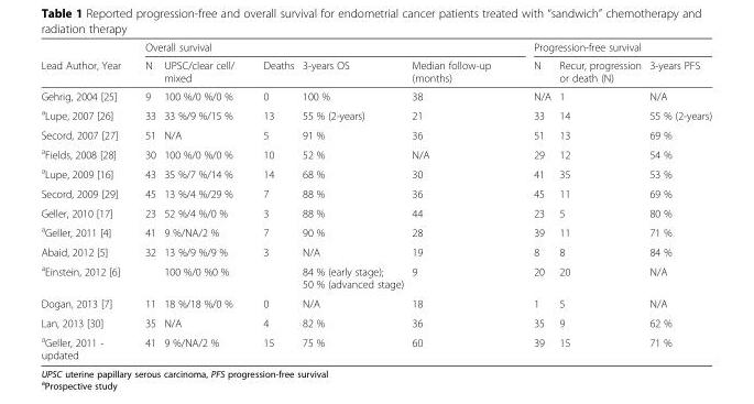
<table><thead><tr><td rowspan="2">Lead Author, Year</td><td colspan="5">Overall survival</td><td colspan="3">Progression-free survival</td></tr><tr><td>N</td><td>UPSC/clear cell/ mixed</td><td>Deaths</td><td>3-years OS</td><td>Median follow-up (months)</td><td>N</td><td>Recur, progression or death (N)</td><td>3-years PFS</td></tr></thead><tbody><tr><td>Gehrig, 2004 [25]</td><td>9</td><td>100 %/0 %/0 %</td><td>0</td><td>100 %</td><td>38</td><td>N/A</td><td>1</td><td>N/A</td></tr><tr><td><sup>a</sup>Lupe, 2007 [26]</td><td>33</td><td>33 %/9 %/15 %</td><td>13</td><td>55 % (2-years)</td><td>21</td><td>33</td><td>14</td><td>55 % (2-years)</td></tr><tr><td>Secord, 2007 [27]</td><td>51</td><td>N/A</td><td>5</td><td>91 %</td><td>36</td><td>51</td><td>13</td><td>69 %</td></tr><tr><td><sup>a</sup>Fields, 2008 [28]</td><td>30</td><td>100 %/0 %/0 %</td><td>10</td><td>52 %</td><td>N/A</td><td>29</td><td>12</td><td>54 %</td></tr><tr><td><sup>a</sup>Lupe, 2009 [16]</td><td>43</td><td>35 %/7 %/14 %</td><td>14</td><td>68 %</td><td>30</td><td>41</td><td>35</td><td>53 %</td></tr><tr><td>Secord, 2009 [29]</td><td>45</td><td>13 %/4 %/29 %</td><td>7</td><td>88 %</td><td>36</td><td>45</td><td>11</td><td>69 %</td></tr><tr><td>Geller, 2010 [17]</td><td>23</td><td>52 %/4 %/0 %</td><td>3</td><td>88 %</td><td>44</td><td>23</td><td>5</td><td>80 %</td></tr><tr><td><sup>a</sup>Geller, 2011 [4]</td><td>41</td><td>9 %/NA/2 %</td><td>7</td><td>90 %</td><td>28</td><td>39</td><td>11</td><td>71 %</td></tr><tr><td>Abaid, 2012 [5]</td><td>32</td><td>13 %/9 %/9 %</td><td>3</td><td>N/A</td><td>19</td><td>8</td><td>8</td><td>84 %</td></tr><tr><td><sup>a</sup>Einstein, 2012 [6]</td><td></td><td>100 %/0 %0 %</td><td></td><td>84 % (early stage); 50 % (advanced stage)</td><td>9</td><td>20</td><td>20</td><td>N/A</td></tr><tr><td>Dogan, 2013 [7]</td><td>11</td><td>18 %/18 %/0 %</td><td>0</td><td>N/A</td><td>18</td><td>1</td><td>5</td><td>N/A</td></tr><tr><td>Lan, 2013 [30]</td><td>35</td><td>N/A</td><td>4</td><td>82 %</td><td>36</td><td>35</td><td>9</td><td>62 %</td></tr><tr><td><sup>a</sup>Geller, 2011 - updated</td><td>41</td><td>9 %/NA/2 %</td><td>15</td><td>75 %</td><td>60</td><td>39</td><td>15</td><td>71 %</td></tr></tbody></table>